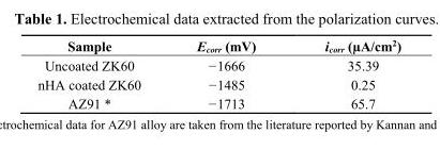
<table><thead><tr><td>Sample</td><td>E<sub>corr</sub> (mV)</td><td>i<sub>corr</sub> (µA/cm<sup>2</sup>)</td></tr></thead><tbody><tr><td>Uncoated ZK60</td><td>−1666</td><td>35.39</td></tr><tr><td>nHA coated ZK60</td><td>−1485</td><td>0.25</td></tr><tr><td>AZ91 *</td><td>−1713</td><td>65.7</td></tr></tbody></table>